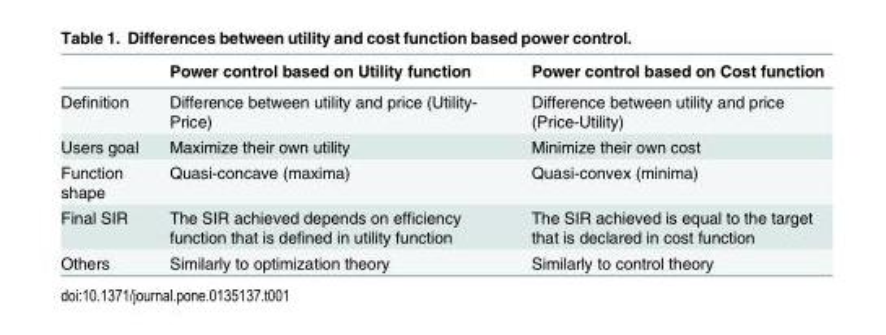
<table><thead><tr><td></td><td>Power control based on Utility function</td><td>Power control based on Cost function</td></tr></thead><tbody><tr><td>Definition</td><td>Difference between utility and price (Utility- Price)</td><td>Difference between utility and price (Price-Utility)</td></tr><tr><td>Users goal</td><td>Maximize their own utility</td><td>Minimize their own cost</td></tr><tr><td>Function shape</td><td>Quasi-concave (maxima)</td><td>Quasi-convex (minima)</td></tr><tr><td>Final SIR</td><td>The SIR achieved depends on efficiency function that is defined in utility function</td><td>The SIR achieved is equal to the target that is declared in cost function</td></tr><tr><td>Others</td><td>Similarly to optimization theory</td><td>Similarly to control theory</td></tr></tbody></table>